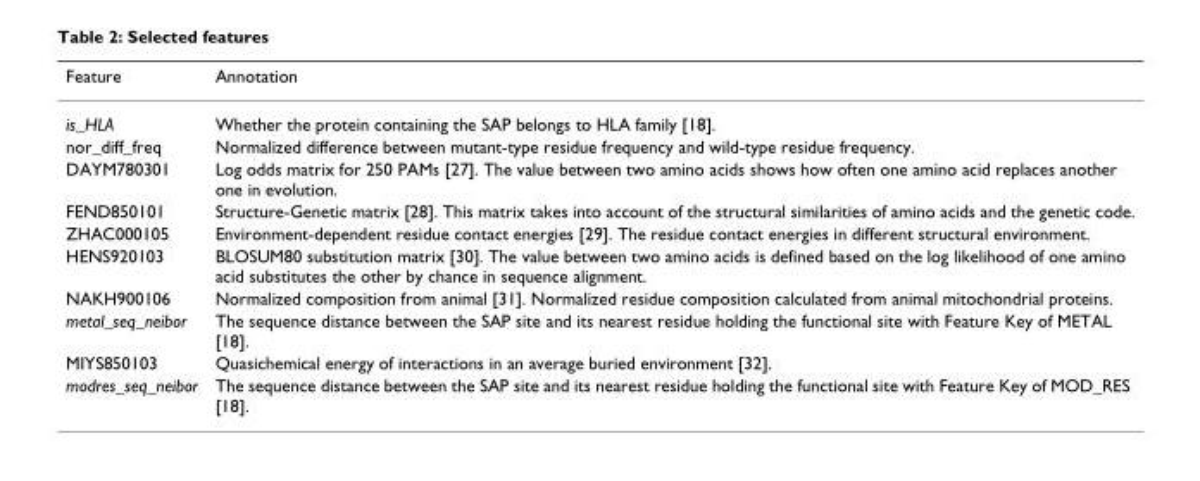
<table><thead><tr><td>Feature</td><td>Annotation</td></tr></thead><tbody><tr><td>is_HLA</td><td>Whether the protein containing the SAP belongs to HLA family [18].</td></tr><tr><td>nor_diff_freq</td><td>Normalized difference between mutant-type residue frequency and wild-type residue frequency.</td></tr><tr><td>DAYM780301</td><td>Log odds matrix for 250 PAMs [27]. The value between two amino acids shows how often one amino acid replaces another one in evolution.</td></tr><tr><td>FEND850101</td><td>Structure-Genetic matrix [28]. This matrix takes into account of the structural similarities of amino acids and the genetic code.</td></tr><tr><td>ZHAC000105</td><td>Environment-dependent residue contact energies [29]. The residue contact energies in different structural environment.</td></tr><tr><td>HENS920103</td><td>BLOSUM80 substitution matrix [30]. The value between two amino acids is defined based on the log likelihood of one amino acid substitutes the other by chance in sequence alignment.</td></tr><tr><td>NAKH900106</td><td>Normalized composition from animal [31]. Normalized residue composition calculated from animal mitochondrial proteins.</td></tr><tr><td>metal_seq_neibor</td><td>The sequence distance between the SAP site and its nearest residue holding the functional site with Feature Key of METAL [18].</td></tr><tr><td>MIYS850103</td><td>Quasichemical energy of interactions in an average buried environment [32].</td></tr><tr><td>modres_seq_neibor</td><td>The sequence distance between the SAP site and its nearest residue holding the functional site with Feature Key of MOD_RES [18].</td></tr></tbody></table>